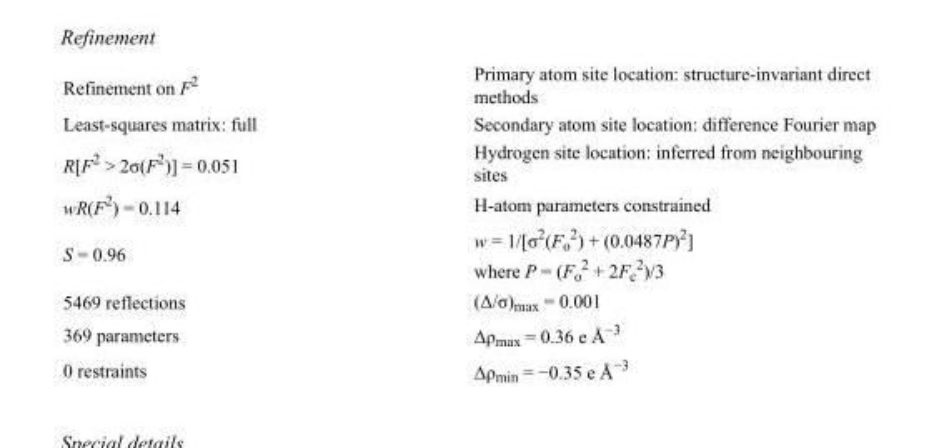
<table><tbody><tr><td>Refinement on F<sup>2</sup></td><td>Primary atom site location: structure-invariant direct methods</td></tr><tr><td>Least-squares matrix: full</td><td>Secondary atom site location: difference Fourier map</td></tr><tr><td>R[F<sup>2</sup> &gt; 2σ(F<sup>2</sup>)] = 0.051</td><td>Hydrogen site location: inferred from neighbouring sites</td></tr><tr><td>wR(F<sup>2</sup>) = 0.114</td><td>H-atom parameters constrained</td></tr><tr><td>S = 0.96</td><td>w = 1/[σ<sup>2</sup>(F<sub>o</sub> <sup>2</sup>) + (0.0487P)<sup>2</sup>] where P = (F<sub>o</sub> <sup>2</sup> + 2F<sub>c</sub> <sup>2</sup>)/3</td></tr><tr><td>5469 reflections</td><td>(Δ/σ)<sub>max</sub> = 0.001</td></tr><tr><td>369 parameters</td><td>Δρ<sub>max</sub> = 0.36 e Å<sup>−3</sup></td></tr><tr><td>0 restraints</td><td>Δρ<sub>min</sub> = −0.35 e Å<sup>−3</sup></td></tr></tbody></table>